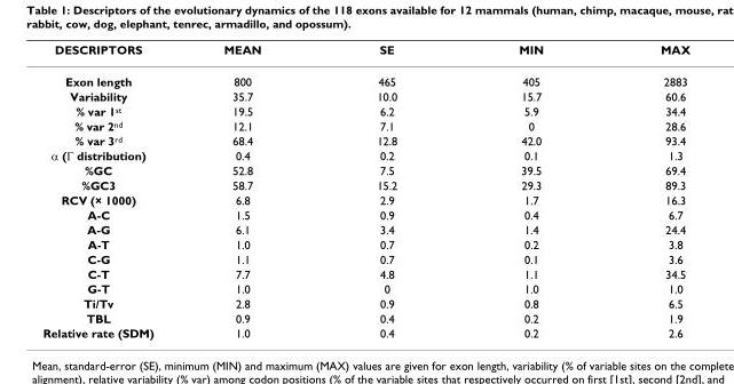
<table><thead><tr><td>DESCRIPTORS</td><td>MEAN</td><td>SE</td><td>MIN</td><td>MAX</td></tr></thead><tbody><tr><td>Exon length</td><td>800</td><td>465</td><td>405</td><td>2883</td></tr><tr><td>Variability</td><td>35.7</td><td>10.0</td><td>15.7</td><td>60.6</td></tr><tr><td>% var 1<sup>st</sup></td><td>19.5</td><td>6.2</td><td>5.9</td><td>34.4</td></tr><tr><td>% var 2<sup>nd</sup></td><td>12.1</td><td>7.1</td><td>0</td><td>28.6</td></tr><tr><td>% var 3<sup>rd</sup></td><td>68.4</td><td>12.8</td><td>42.0</td><td>93.4</td></tr><tr><td>α (Γ distribution)</td><td>0.4</td><td>0.2</td><td>0.1</td><td>1.3</td></tr><tr><td>%GC</td><td>52.8</td><td>7.5</td><td>39.5</td><td>69.4</td></tr><tr><td>%GC3</td><td>58.7</td><td>15.2</td><td>29.3</td><td>89.3</td></tr><tr><td>RCV (× 1000)</td><td>6.8</td><td>2.9</td><td>1.7</td><td>16.3</td></tr><tr><td>A-C</td><td>1.5</td><td>0.9</td><td>0.4</td><td>6.7</td></tr><tr><td>A-G</td><td>6.1</td><td>3.4</td><td>1.4</td><td>24.4</td></tr><tr><td>A-T</td><td>1.0</td><td>0.7</td><td>0.2</td><td>3.8</td></tr><tr><td>C-G</td><td>1.1</td><td>0.7</td><td>0.1</td><td>3.6</td></tr><tr><td>C-T</td><td>7.7</td><td>4.8</td><td>1.1</td><td>34.5</td></tr><tr><td>G-T</td><td>1.0</td><td>0</td><td>1.0</td><td>1.0</td></tr><tr><td>Ti/Tv</td><td>2.8</td><td>0.9</td><td>0.8</td><td>6.5</td></tr><tr><td>TBL</td><td>0.9</td><td>0.4</td><td>0.2</td><td>1.9</td></tr><tr><td>Relative rate (SDM)</td><td>1.0</td><td>0.4</td><td>0.2</td><td>2.6</td></tr></tbody></table>